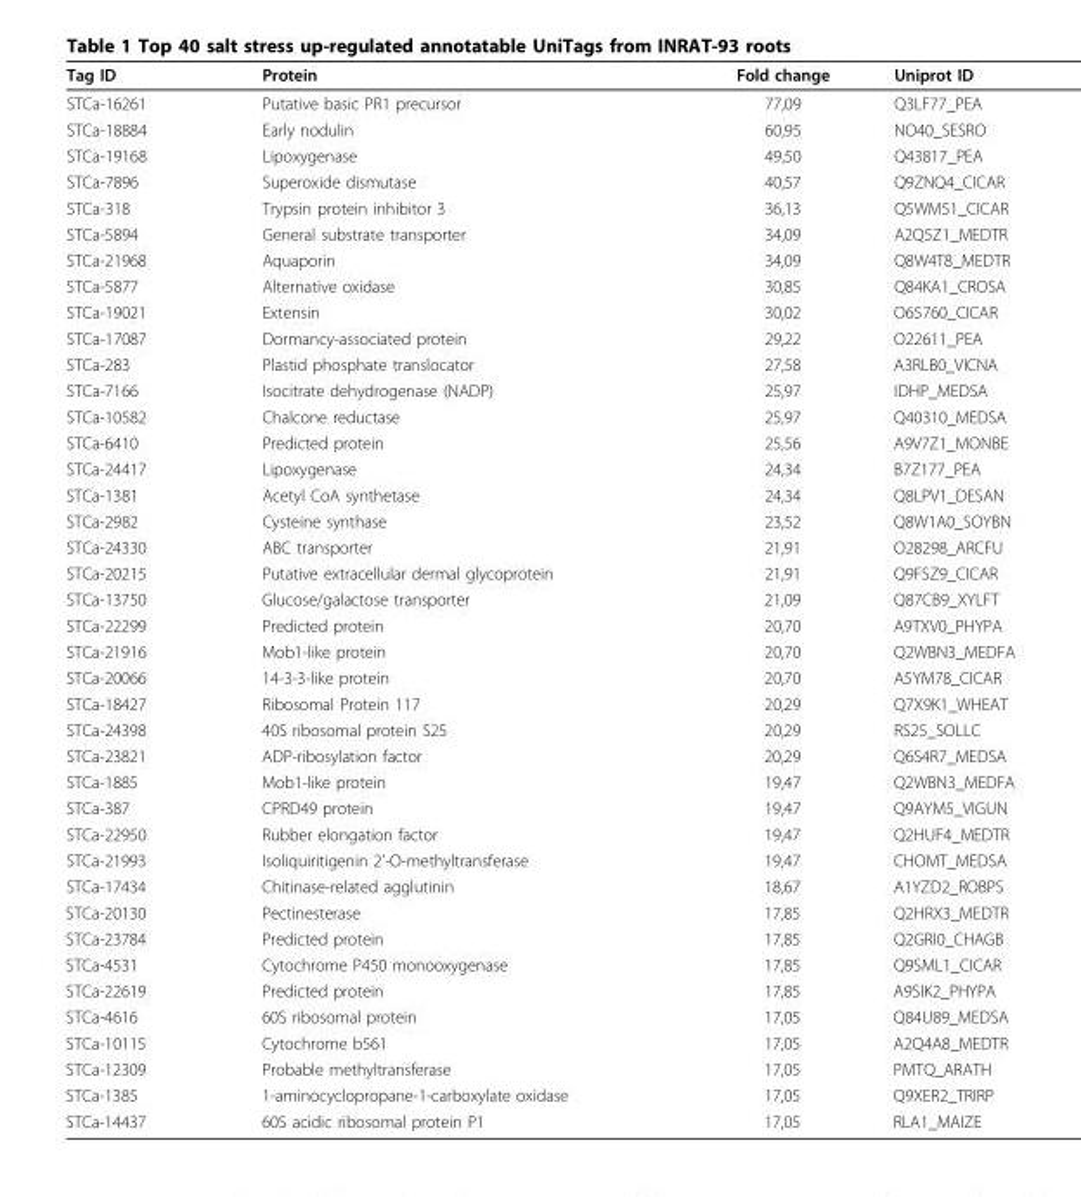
<table><thead><tr><td>Tag ID</td><td>Protein</td><td>Fold change</td><td>Uniprot ID</td></tr></thead><tbody><tr><td>STCa-16261</td><td>Putative basic PR1 precursor</td><td>77,09</td><td>Q3LF77_PEA</td></tr><tr><td>STCa-18884</td><td>Early nodulin</td><td>60,95</td><td>NO40_SESRO</td></tr><tr><td>STCa-19168</td><td>Lipoxygenase</td><td>49,50</td><td>Q43817_PEA</td></tr><tr><td>STCa-7896</td><td>Superoxide dismutase</td><td>40,57</td><td>Q9ZNQ4_CICAR</td></tr><tr><td>STCa-318</td><td>Trypsin protein inhibitor 3</td><td>36,13</td><td>Q5WM51_CICAR</td></tr><tr><td>STCa-5894</td><td>General substrate transporter</td><td>34,09</td><td>A2Q5Z1_MEDTR</td></tr><tr><td>STCa-21968</td><td>Aquaporin</td><td>34,09</td><td>Q8W4T8_MEDTR</td></tr><tr><td>STCa-5877</td><td>Alternative oxidase</td><td>30,85</td><td>Q84KA1_CROSA</td></tr><tr><td>STCa-19021</td><td>Extensin</td><td>30,02</td><td>O65760_CICAR</td></tr><tr><td>STCa-17087</td><td>Dormancy-associated protein</td><td>29,22</td><td>O22611_PEA</td></tr><tr><td>STCa-283</td><td>Plastid phosphate translocator</td><td>27,58</td><td>A3RLB0_VICNA</td></tr><tr><td>STCa-7166</td><td>Isocitrate dehydrogenase (NADP)</td><td>25,97</td><td>IDHP_MEDSA</td></tr><tr><td>STCa-10582</td><td>Chalcone reductase</td><td>25,97</td><td>Q40310_MEDSA</td></tr><tr><td>STCa-6410</td><td>Predicted protein</td><td>25,56</td><td>A9V7Z1_MONBE</td></tr><tr><td>STCa-24417</td><td>Lipoxygenase</td><td>24,34</td><td>B7Z177_PEA</td></tr><tr><td>STCa-1381</td><td>Acetyl CoA synthetase</td><td>24,34</td><td>Q8LPV1_DESAN</td></tr><tr><td>STCa-2982</td><td>Cysteine synthase</td><td>23,52</td><td>Q8W1A0_SOYBN</td></tr><tr><td>STCa-24330</td><td>ABC transporter</td><td>21,91</td><td>O28298_ARCFU</td></tr><tr><td>STCa-20215</td><td>Putative extracellular dermal glycoprotein</td><td>21,91</td><td>Q9FSZ9_CICAR</td></tr><tr><td>STCa-13750</td><td>Glucose/galactose transporter</td><td>21,09</td><td>Q87CB9_XYLFT</td></tr><tr><td>STCa-22299</td><td>Predicted protein</td><td>20,70</td><td>A9TXV0_PHYPA</td></tr><tr><td>STCa-21916</td><td>Mob1-like protein</td><td>20,70</td><td>Q2WBN3_MEDFA</td></tr><tr><td>STCa-20066</td><td>14-3-3-like protein</td><td>20,70</td><td>A5YM78_CICAR</td></tr><tr><td>STCa-18427</td><td>Ribosomal Protein 117</td><td>20,29</td><td>Q7X9K1_WHEAT</td></tr><tr><td>STCa-24398</td><td>40S ribosomal protein S25</td><td>20,29</td><td>RS25_SOLLC</td></tr><tr><td>STCa-23821</td><td>ADP-ribosylation factor</td><td>20,29</td><td>Q6S4R7_MEDSA</td></tr><tr><td>STCa-1885</td><td>Mob1-like protein</td><td>19,47</td><td>Q2WBN3_MEDFA</td></tr><tr><td>STCa-387</td><td>CPRD49 protein</td><td>19,47</td><td>Q9AYM5_VIGUN</td></tr><tr><td>STCa-22950</td><td>Rubber elongation factor</td><td>19,47</td><td>Q2HUF4_MEDTR</td></tr><tr><td>STCa-21993</td><td>Isoliquiritigenin 2’-O-methyltransferase</td><td>19,47</td><td>CHOMT_MEDSA</td></tr><tr><td>STCa-17434</td><td>Chitinase-related agglutinin</td><td>18,67</td><td>A1YZD2_ROBPS</td></tr><tr><td>STCa-20130</td><td>Pectinesterase</td><td>17,85</td><td>Q2HRX3_MEDTR</td></tr><tr><td>STCa-23784</td><td>Predicted protein</td><td>17,85</td><td>Q2GRI0_CHAGB</td></tr><tr><td>STCa-4531</td><td>Cytochrome P450 monooxygenase</td><td>17,85</td><td>Q9SML1_CICAR</td></tr><tr><td>STCa-22619</td><td>Predicted protein</td><td>17,85</td><td>A9SIK2_PHYPA</td></tr><tr><td>STCa-4616</td><td>60S ribosomal protein</td><td>17,05</td><td>Q84U89_MEDSA</td></tr><tr><td>STCa-10115</td><td>Cytochrome b561</td><td>17,05</td><td>A2Q4A8_MEDTR</td></tr><tr><td>STCa-12309</td><td>Probable methyltransferase</td><td>17,05</td><td>PMTQ_ARATH</td></tr><tr><td>STCa-1385</td><td>1-aminocyclopropane-1-carboxylate oxidase</td><td>17,05</td><td>Q9XER2_TRIRP</td></tr><tr><td>STCa-14437</td><td>60S acidic ribosomal protein P1</td><td>17,05</td><td>RLA1_MAIZE</td></tr></tbody></table>